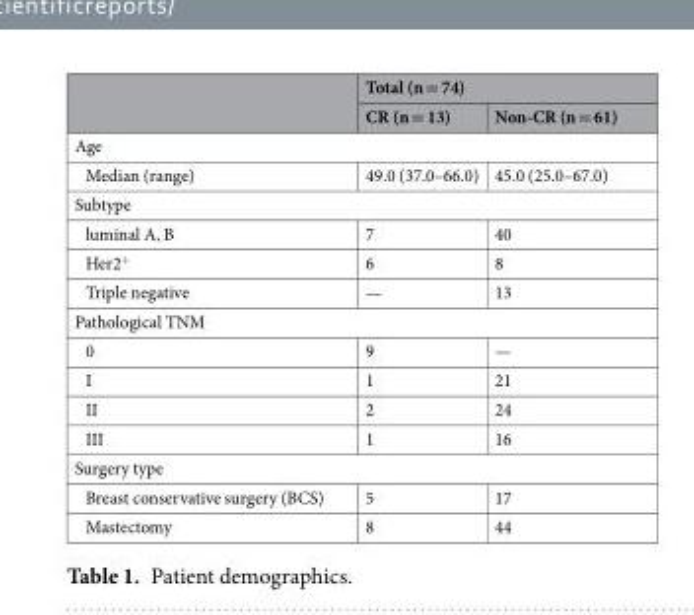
<table><thead><tr><td rowspan="2"></td><td colspan="2">Total (n = 74)</td></tr><tr><td>CR (n = 13)</td><td>Non-CR (n = 61)</td></tr></thead><tbody><tr><td colspan="3">Age</td></tr><tr><td>Median (range)</td><td>49.0 (37.0–66.0)</td><td>45.0 (25.0–67.0)</td></tr><tr><td colspan="3">Subtype</td></tr><tr><td>luminal A, B</td><td>7</td><td>40</td></tr><tr><td>Her2<sup>+</sup></td><td>6</td><td>8</td></tr><tr><td>Triple negative</td><td>—</td><td>13</td></tr><tr><td colspan="3">Pathological TNM</td></tr><tr><td>0</td><td>9</td><td>—</td></tr><tr><td>I</td><td>1</td><td>21</td></tr><tr><td>II</td><td>2</td><td>24</td></tr><tr><td>III</td><td>1</td><td>16</td></tr><tr><td colspan="3">Surgery type</td></tr><tr><td>Breast conservative surgery (BCS)</td><td>5</td><td>17</td></tr><tr><td>Mastectomy</td><td>8</td><td>44</td></tr></tbody></table>